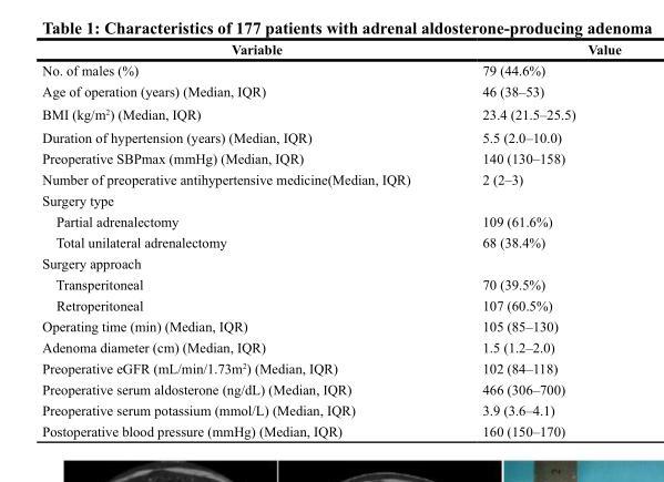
<table><thead><tr><td>Variable</td><td>Value</td></tr></thead><tbody><tr><td>No. of males (%)</td><td>79 (44.6%)</td></tr><tr><td>Age of operation (years) (Median, IQR)</td><td>46 (38–53)</td></tr><tr><td>BMI (kg/m<sup>2</sup>) (Median, IQR)</td><td>23.4 (21.5–25.5)</td></tr><tr><td>Duration of hypertension (years) (Median, IQR)</td><td>5.5 (2.0–10.0)</td></tr><tr><td>Preoperative SBPmax (mmHg) (Median, IQR)</td><td>140 (130–158)</td></tr><tr><td>Number of preoperative antihypertensive medicine(Median, IQR)</td><td>2 (2–3)</td></tr><tr><td colspan="2">Surgery type</td></tr><tr><td>Partial adrenalectomy</td><td>109 (61.6%)</td></tr><tr><td>Total unilateral adrenalectomy</td><td>68 (38.4%)</td></tr><tr><td colspan="2">Surgery approach</td></tr><tr><td>Transperitoneal</td><td>70 (39.5%)</td></tr><tr><td>Retroperitoneal</td><td>107 (60.5%)</td></tr><tr><td>Operating time (min) (Median, IQR)</td><td>105 (85–130)</td></tr><tr><td>Adenoma diameter (cm) (Median, IQR)</td><td>1.5 (1.2–2.0)</td></tr><tr><td>Preoperative eGFR (mL/min/1.73m<sup>2</sup>) (Median, IQR)</td><td>102 (84–118)</td></tr><tr><td>Preoperative serum aldosterone (ng/dL) (Median, IQR)</td><td>466 (306–700)</td></tr><tr><td>Preoperative serum potassium (mmol/L) (Median, IQR)</td><td>3.9 (3.6–4.1)</td></tr><tr><td>Postoperative blood pressure (mmHg) (Median, IQR)</td><td>160 (150–170)</td></tr></tbody></table>